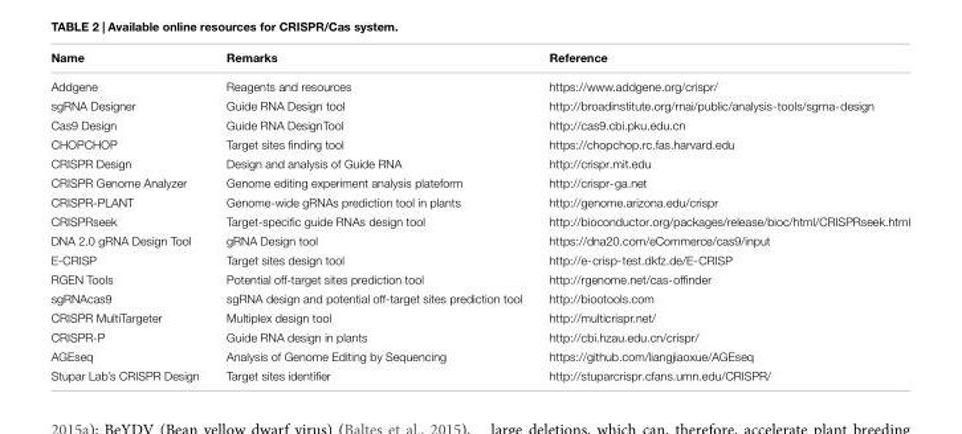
<table><thead><tr><td>Name</td><td>Remarks</td><td>Reference</td></tr></thead><tbody><tr><td>Addgene</td><td>Reagents and resources</td><td>https://www.addgene.org/crispr/</td></tr><tr><td>sgRNA Designer</td><td>Guide RNA Design tool</td><td>http://broadinstitute.org/rnai/public/analysis-tools/sgrna-design</td></tr><tr><td>Cas9 Design</td><td>Guide RNA DesignTool</td><td>http://cas9.cbi.pku.edu.cn</td></tr><tr><td>CHOPCHOP</td><td>Target sites finding tool</td><td>https://chopchop.rc.fas.harvard.edu</td></tr><tr><td>CRISPR Design</td><td>Design and analysis of Guide RNA</td><td>http://crispr.mit.edu</td></tr><tr><td>CRISPR Genome Analyzer</td><td>Genome editing experiment analysis plateform</td><td>http://crispr-ga.net</td></tr><tr><td>CRISPR-PLANT</td><td>Genome-wide gRNAs prediction tool in plants</td><td>http://genome.arizona.edu/crispr</td></tr><tr><td>CRISPRseek</td><td>Target-specific guide RNAs design tool</td><td>http://bioconductor.org/packages/release/bioc/html/CRISPRseek.html</td></tr><tr><td>DNA 2.0 gRNA Design Tool</td><td>gRNA Design tool</td><td>https://dna20.com/eCommerce/cas9/input</td></tr><tr><td>E-CRISP</td><td>Target sites design tool</td><td>http://e-crisp-test.dkfz.de/E-CRISP</td></tr><tr><td>RGEN Tools</td><td>Potential off-target sites prediction tool</td><td>http://rgenome.net/cas-offinder</td></tr><tr><td>sgRNAcas9</td><td>sgRNA design and potential off-target sites prediction tool</td><td>http://biootools.com</td></tr><tr><td>CRISPR MultiTargeter</td><td>Multiplex design tool</td><td>http://multicrispr.net/</td></tr><tr><td>CRISPR-P</td><td>Guide RNA design in plants</td><td>http://cbi.hzau.edu.cn/crispr/</td></tr><tr><td>AGEseq</td><td>Analysis of Genome Editing by Sequencing</td><td>https://github.com/liangjiaoxue/AGEseq</td></tr><tr><td>Stupar Lab’s CRISPR Design</td><td>Target sites identifier</td><td>http://stuparcrispr.cfans.umn.edu/CRISPR/</td></tr></tbody></table>